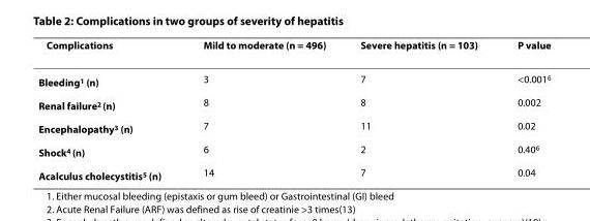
<table><thead><tr><td>Complications</td><td>Mild to moderate (n = 496)</td><td>Severe hepatitis (n = 103)</td><td>P value</td></tr></thead><tbody><tr><td>Bleeding<sup>1</sup> (n)</td><td>3</td><td>7</td><td>&lt;0.001<sup>6</sup></td></tr><tr><td>Renal failure<sup>2</sup> (n)</td><td>8</td><td>8</td><td>0.002</td></tr><tr><td>Encephalopathy<sup>3</sup> (n)</td><td>7</td><td>11</td><td>0.02</td></tr><tr><td>Shock<sup>4</sup> (n)</td><td>6</td><td>2</td><td>0.40<sup>6</sup></td></tr><tr><td>Acalculus cholecystitis<sup>5</sup> (n)</td><td>14</td><td>7</td><td>0.04</td></tr></tbody></table>